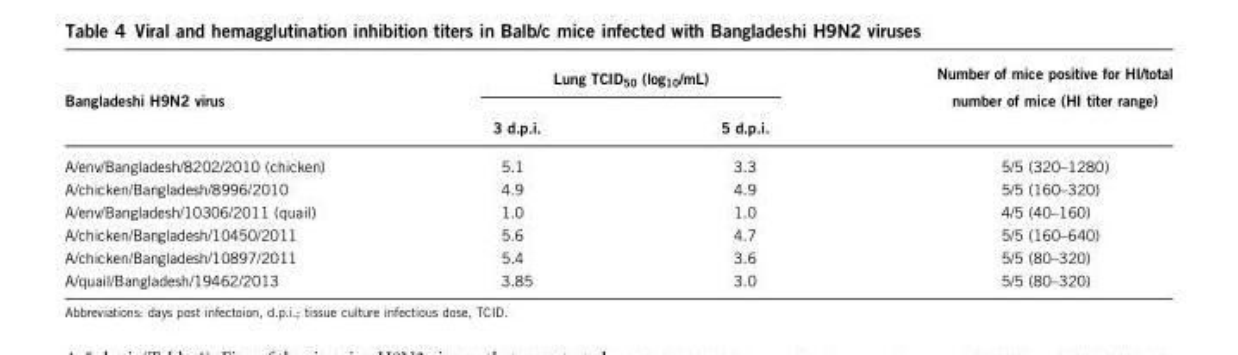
<table><thead><tr><td rowspan="2">Bangladeshi H9N2 virus</td><td colspan="2">Lung TCID<sub>50</sub> (log<sub>10</sub>/mL)</td><td rowspan="2">Number of mice positive for HI/total number of mice (HI titer range)</td></tr><tr><td>3 d.p.i.</td><td>5 d.p.i.</td></tr></thead><tbody><tr><td>A/env/Bangladesh/8202/2010 (chicken)</td><td>5.1</td><td>3.3</td><td>5/5 (320–1280)</td></tr><tr><td>A/chicken/Bangladesh/8996/2010</td><td>4.9</td><td>4.9</td><td>5/5 (160–320)</td></tr><tr><td>A/env/Bangladesh/10306/2011 (quail)</td><td>1.0</td><td>1.0</td><td>4/5 (40–160)</td></tr><tr><td>A/chicken/Bangladesh/10450/2011</td><td>5.6</td><td>4.7</td><td>5/5 (160–640)</td></tr><tr><td>A/chicken/Bangladesh/10897/2011</td><td>5.4</td><td>3.6</td><td>5/5 (80–320)</td></tr><tr><td>A/quail/Bangladesh/19462/2013</td><td>3.85</td><td>3.0</td><td>5/5 (80–320)</td></tr></tbody></table>